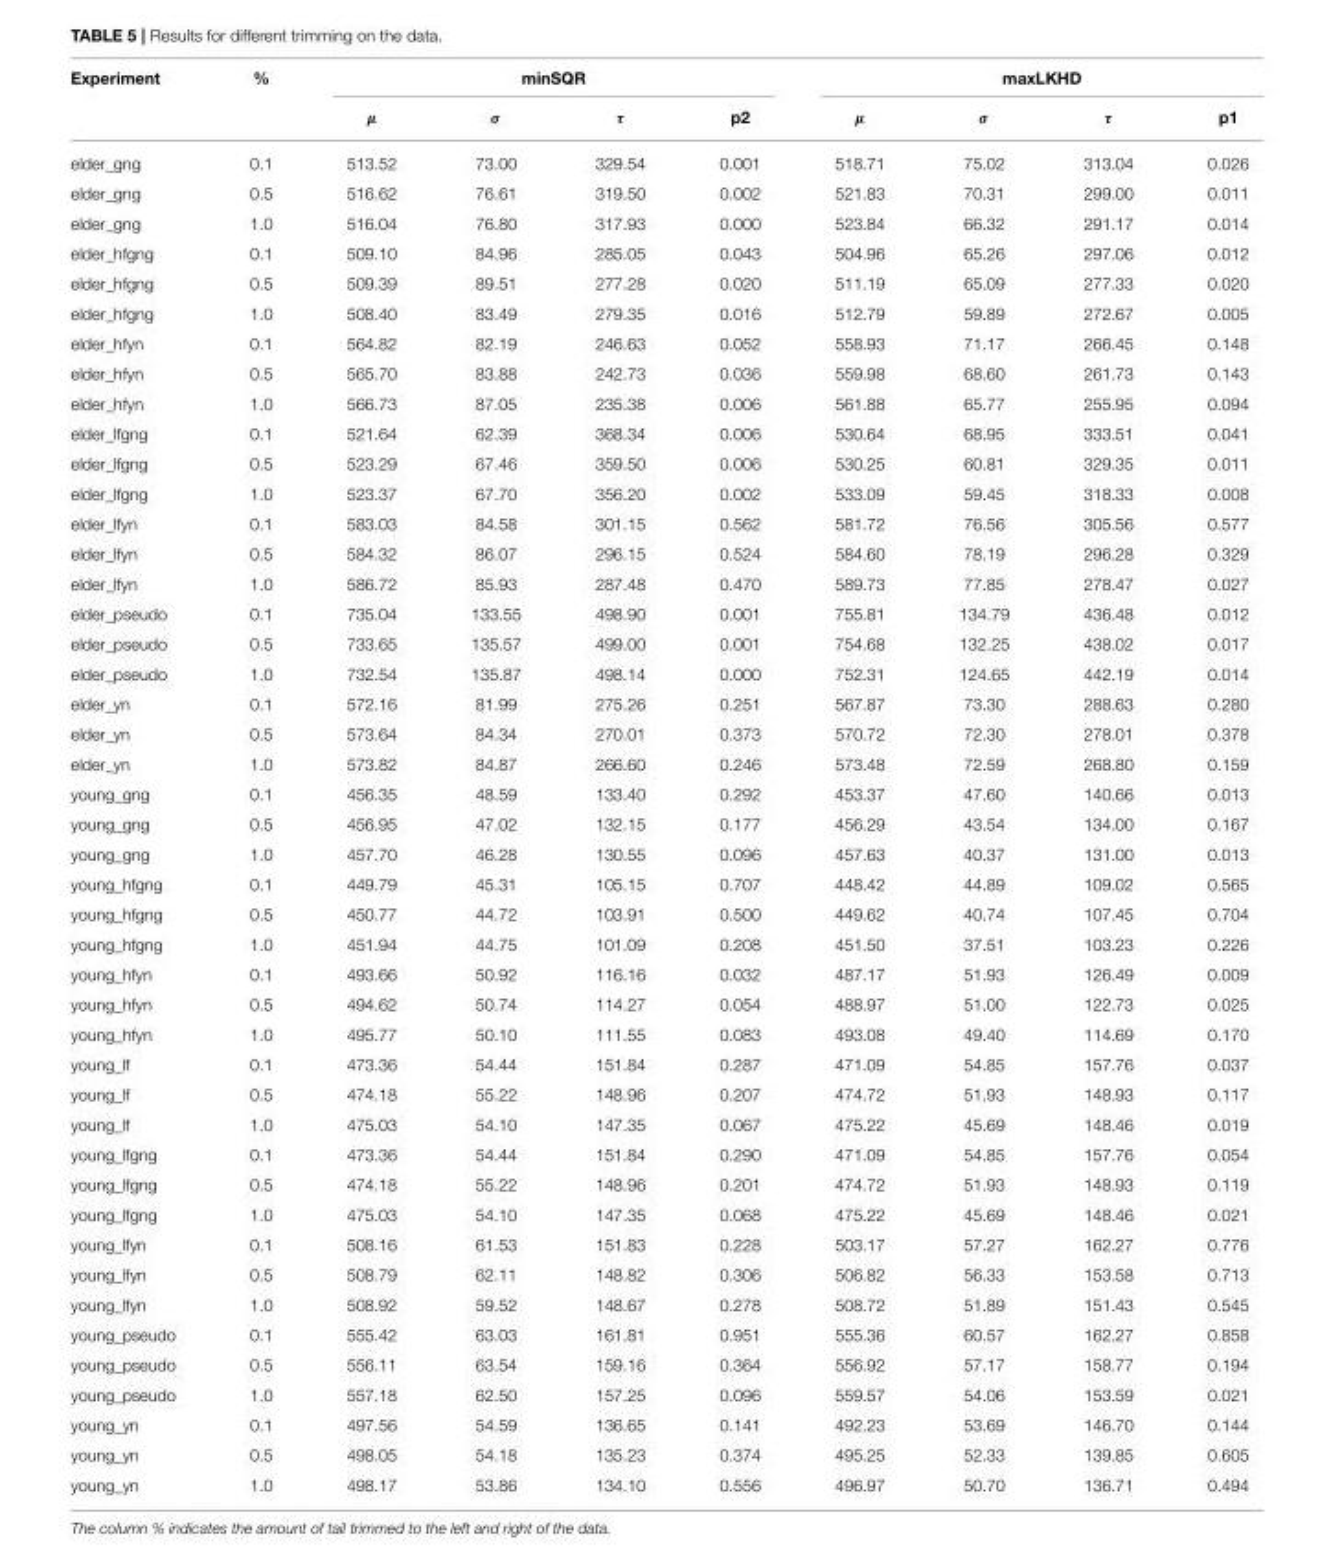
<table><thead><tr><td rowspan="2">Experiment</td><td rowspan="2">%</td><td colspan="4">minSQR</td><td colspan="4">maxLKHD</td></tr><tr><td>µ</td><td>σ</td><td>τ</td><td>p2</td><td>µ</td><td>σ</td><td>τ</td><td>p1</td></tr></thead><tbody><tr><td>elder_gng</td><td>0.1</td><td>513.52</td><td>73.00</td><td>329.54</td><td>0.001</td><td>518.71</td><td>75.02</td><td>313.04</td><td>0.026</td></tr><tr><td>elder_gng</td><td>0.5</td><td>516.62</td><td>76.61</td><td>319.50</td><td>0.002</td><td>521.83</td><td>70.31</td><td>299.00</td><td>0.011</td></tr><tr><td>elder_gng</td><td>1.0</td><td>516.04</td><td>76.80</td><td>317.93</td><td>0.000</td><td>523.84</td><td>66.32</td><td>291.17</td><td>0.014</td></tr><tr><td>elder_hfgng</td><td>0.1</td><td>509.10</td><td>84.96</td><td>285.05</td><td>0.043</td><td>504.96</td><td>65.26</td><td>297.06</td><td>0.012</td></tr><tr><td>elder_hfgng</td><td>0.5</td><td>509.39</td><td>89.51</td><td>277.28</td><td>0.020</td><td>511.19</td><td>65.09</td><td>277.33</td><td>0.020</td></tr><tr><td>elder_hfgng</td><td>1.0</td><td>508.40</td><td>83.49</td><td>279.35</td><td>0.016</td><td>512.79</td><td>59.89</td><td>272.67</td><td>0.005</td></tr><tr><td>elder_hfyn</td><td>0.1</td><td>564.82</td><td>82.19</td><td>246.63</td><td>0.052</td><td>558.93</td><td>71.17</td><td>266.45</td><td>0.148</td></tr><tr><td>elder_hfyn</td><td>0.5</td><td>565.70</td><td>83.88</td><td>242.73</td><td>0.036</td><td>559.98</td><td>68.60</td><td>261.73</td><td>0.143</td></tr><tr><td>elder_hfyn</td><td>1.0</td><td>566.73</td><td>87.05</td><td>235.38</td><td>0.006</td><td>561.88</td><td>65.77</td><td>255.95</td><td>0.094</td></tr><tr><td>elder_lfgng</td><td>0.1</td><td>521.64</td><td>62.39</td><td>368.34</td><td>0.006</td><td>530.64</td><td>68.95</td><td>333.51</td><td>0.041</td></tr><tr><td>elder_lfgng</td><td>0.5</td><td>523.29</td><td>67.46</td><td>359.50</td><td>0.006</td><td>530.25</td><td>60.81</td><td>329.35</td><td>0.011</td></tr><tr><td>elder_lfgng</td><td>1.0</td><td>523.37</td><td>67.70</td><td>356.20</td><td>0.002</td><td>533.09</td><td>59.45</td><td>318.33</td><td>0.008</td></tr><tr><td>elder_lfyn</td><td>0.1</td><td>583.03</td><td>84.58</td><td>301.15</td><td>0.562</td><td>581.72</td><td>76.56</td><td>305.56</td><td>0.577</td></tr><tr><td>elder_lfyn</td><td>0.5</td><td>584.32</td><td>86.07</td><td>296.15</td><td>0.524</td><td>584.60</td><td>78.19</td><td>296.28</td><td>0.329</td></tr><tr><td>elder_lfyn</td><td>1.0</td><td>586.72</td><td>85.93</td><td>287.48</td><td>0.470</td><td>589.73</td><td>77.85</td><td>278.47</td><td>0.027</td></tr><tr><td>elder_pseudo</td><td>0.1</td><td>735.04</td><td>133.55</td><td>498.90</td><td>0.001</td><td>755.81</td><td>134.79</td><td>436.48</td><td>0.012</td></tr><tr><td>elder_pseudo</td><td>0.5</td><td>733.65</td><td>135.57</td><td>499.00</td><td>0.001</td><td>754.68</td><td>132.25</td><td>438.02</td><td>0.017</td></tr><tr><td>elder_pseudo</td><td>1.0</td><td>732.54</td><td>135.87</td><td>498.14</td><td>0.000</td><td>752.31</td><td>124.65</td><td>442.19</td><td>0.014</td></tr><tr><td>elder_yn</td><td>0.1</td><td>572.16</td><td>81.99</td><td>275.26</td><td>0.251</td><td>567.87</td><td>73.30</td><td>288.63</td><td>0.280</td></tr><tr><td>elder_yn</td><td>0.5</td><td>573.64</td><td>84.34</td><td>270.01</td><td>0.373</td><td>570.72</td><td>72.30</td><td>278.01</td><td>0.378</td></tr><tr><td>elder_yn</td><td>1.0</td><td>573.82</td><td>84.87</td><td>266.60</td><td>0.246</td><td>573.48</td><td>72.59</td><td>268.80</td><td>0.159</td></tr><tr><td>young_gng</td><td>0.1</td><td>456.35</td><td>48.59</td><td>133.40</td><td>0.292</td><td>453.37</td><td>47.60</td><td>140.66</td><td>0.013</td></tr><tr><td>young_gng</td><td>0.5</td><td>456.95</td><td>47.02</td><td>132.15</td><td>0.177</td><td>456.29</td><td>43.54</td><td>134.00</td><td>0.167</td></tr><tr><td>young_gng</td><td>1.0</td><td>457.70</td><td>46.28</td><td>130.55</td><td>0.096</td><td>457.63</td><td>40.37</td><td>131.00</td><td>0.013</td></tr><tr><td>young_hfgng</td><td>0.1</td><td>449.79</td><td>45.31</td><td>105.15</td><td>0.707</td><td>448.42</td><td>44.89</td><td>109.02</td><td>0.565</td></tr><tr><td>young_hfgng</td><td>0.5</td><td>450.77</td><td>44.72</td><td>103.91</td><td>0.500</td><td>449.62</td><td>40.74</td><td>107.45</td><td>0.704</td></tr><tr><td>young_hfgng</td><td>1.0</td><td>451.94</td><td>44.75</td><td>101.09</td><td>0.208</td><td>451.50</td><td>37.51</td><td>103.23</td><td>0.226</td></tr><tr><td>young_hfyn</td><td>0.1</td><td>493.66</td><td>50.92</td><td>116.16</td><td>0.032</td><td>487.17</td><td>51.93</td><td>126.49</td><td>0.009</td></tr><tr><td>young_hfyn</td><td>0.5</td><td>494.62</td><td>50.74</td><td>114.27</td><td>0.054</td><td>488.97</td><td>51.00</td><td>122.73</td><td>0.025</td></tr><tr><td>young_hfyn</td><td>1.0</td><td>495.77</td><td>50.10</td><td>111.55</td><td>0.083</td><td>493.08</td><td>49.40</td><td>114.69</td><td>0.170</td></tr><tr><td>young_lf</td><td>0.1</td><td>473.36</td><td>54.44</td><td>151.84</td><td>0.287</td><td>471.09</td><td>54.85</td><td>157.76</td><td>0.037</td></tr><tr><td>young_lf</td><td>0.5</td><td>474.18</td><td>55.22</td><td>148.96</td><td>0.207</td><td>474.72</td><td>51.93</td><td>148.93</td><td>0.117</td></tr><tr><td>young_lf</td><td>1.0</td><td>475.03</td><td>54.10</td><td>147.35</td><td>0.067</td><td>475.22</td><td>45.69</td><td>148.46</td><td>0.019</td></tr><tr><td>young_lfgng</td><td>0.1</td><td>473.36</td><td>54.44</td><td>151.84</td><td>0.290</td><td>471.09</td><td>54.85</td><td>157.76</td><td>0.054</td></tr><tr><td>young_lfgng</td><td>0.5</td><td>474.18</td><td>55.22</td><td>148.96</td><td>0.201</td><td>474.72</td><td>51.93</td><td>148.93</td><td>0.119</td></tr><tr><td>young_lfgng</td><td>1.0</td><td>475.03</td><td>54.10</td><td>147.35</td><td>0.068</td><td>475.22</td><td>45.69</td><td>148.46</td><td>0.021</td></tr><tr><td>young_lfyn</td><td>0.1</td><td>508.16</td><td>61.53</td><td>151.83</td><td>0.228</td><td>503.17</td><td>57.27</td><td>162.27</td><td>0.776</td></tr><tr><td>young_lfyn</td><td>0.5</td><td>508.79</td><td>62.11</td><td>148.82</td><td>0.306</td><td>506.82</td><td>56.33</td><td>153.58</td><td>0.713</td></tr><tr><td>young_lfyn</td><td>1.0</td><td>508.92</td><td>59.52</td><td>148.67</td><td>0.278</td><td>508.72</td><td>51.89</td><td>151.43</td><td>0.545</td></tr><tr><td>young_pseudo</td><td>0.1</td><td>555.42</td><td>63.03</td><td>161.81</td><td>0.951</td><td>555.36</td><td>60.57</td><td>162.27</td><td>0.858</td></tr><tr><td>young_pseudo</td><td>0.5</td><td>556.11</td><td>63.54</td><td>159.16</td><td>0.364</td><td>556.92</td><td>57.17</td><td>158.77</td><td>0.194</td></tr><tr><td>young_pseudo</td><td>1.0</td><td>557.18</td><td>62.50</td><td>157.25</td><td>0.096</td><td>559.57</td><td>54.06</td><td>153.59</td><td>0.021</td></tr><tr><td>young_yn</td><td>0.1</td><td>497.56</td><td>54.59</td><td>136.65</td><td>0.141</td><td>492.23</td><td>53.69</td><td>146.70</td><td>0.144</td></tr><tr><td>young_yn</td><td>0.5</td><td>498.05</td><td>54.18</td><td>135.23</td><td>0.374</td><td>495.25</td><td>52.33</td><td>139.85</td><td>0.605</td></tr><tr><td>young_yn</td><td>1.0</td><td>498.17</td><td>53.86</td><td>134.10</td><td>0.556</td><td>496.97</td><td>50.70</td><td>136.71</td><td>0.494</td></tr></tbody></table>